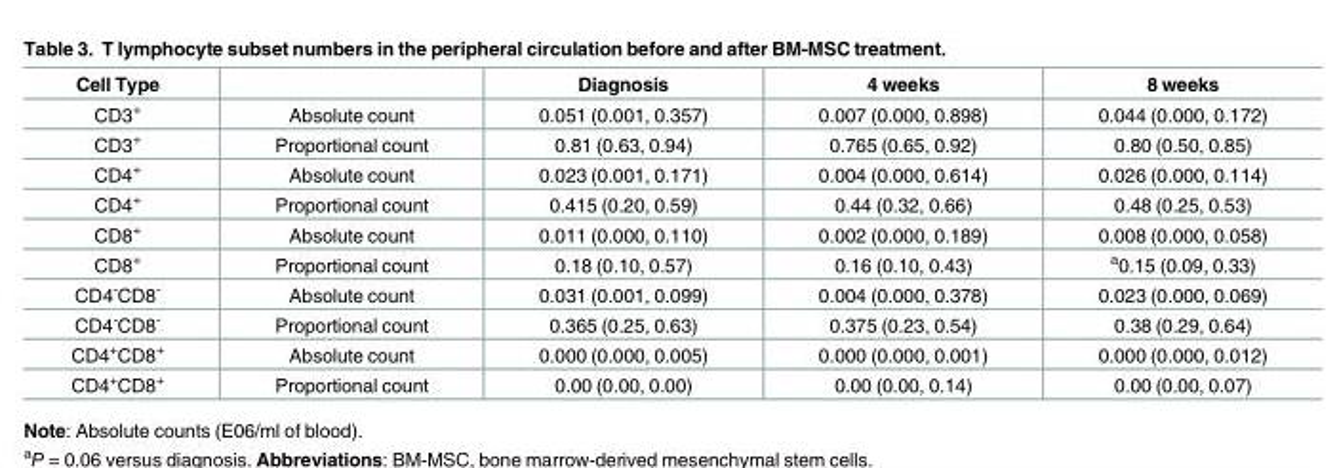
<table><thead><tr><td>Cell Type</td><td></td><td>Diagnosis</td><td>4 weeks</td><td>8 weeks</td></tr></thead><tbody><tr><td>CD3<sup>+</sup></td><td>Absolute count</td><td>0.051 (0.001, 0.357)</td><td>0.007 (0.000, 0.898)</td><td>0.044 (0.000, 0.172)</td></tr><tr><td>CD3<sup>+</sup></td><td>Proportional count</td><td>0.81 (0.63, 0.94)</td><td>0.765 (0.65, 0.92)</td><td>0.80 (0.50, 0.85)</td></tr><tr><td>CD4<sup>+</sup></td><td>Absolute count</td><td>0.023 (0.001, 0.171)</td><td>0.004 (0.000, 0.614)</td><td>0.026 (0.000, 0.114)</td></tr><tr><td>CD4<sup>+</sup></td><td>Proportional count</td><td>0.415 (0.20, 0.59)</td><td>0.44 (0.32, 0.66)</td><td>0.48 (0.25, 0.53)</td></tr><tr><td>CD8<sup>+</sup></td><td>Absolute count</td><td>0.011 (0.000, 0.110)</td><td>0.002 (0.000, 0.189)</td><td>0.008 (0.000, 0.058)</td></tr><tr><td>CD8<sup>+</sup></td><td>Proportional count</td><td>0.18 (0.10, 0.57)</td><td>0.16 (0.10, 0.43)</td><td><sup>a</sup>0.15 (0.09, 0.33)</td></tr><tr><td>CD4<sup>-</sup>CD8<sup>-</sup></td><td>Absolute count</td><td>0.031 (0.001, 0.099)</td><td>0.004 (0.000, 0.378)</td><td>0.023 (0.000, 0.069)</td></tr><tr><td>CD4<sup>-</sup>CD8<sup>-</sup></td><td>Proportional count</td><td>0.365 (0.25, 0.63)</td><td>0.375 (0.23, 0.54)</td><td>0.38 (0.29, 0.64)</td></tr><tr><td>CD4<sup>+</sup>CD8<sup>+</sup></td><td>Absolute count</td><td>0.000 (0.000, 0.005)</td><td>0.000 (0.000, 0.001)</td><td>0.000 (0.000, 0.012)</td></tr><tr><td>CD4<sup>+</sup>CD8<sup>+</sup></td><td>Proportional count</td><td>0.00 (0.00, 0.00)</td><td>0.00 (0.00, 0.14)</td><td>0.00 (0.00, 0.07)</td></tr></tbody></table>